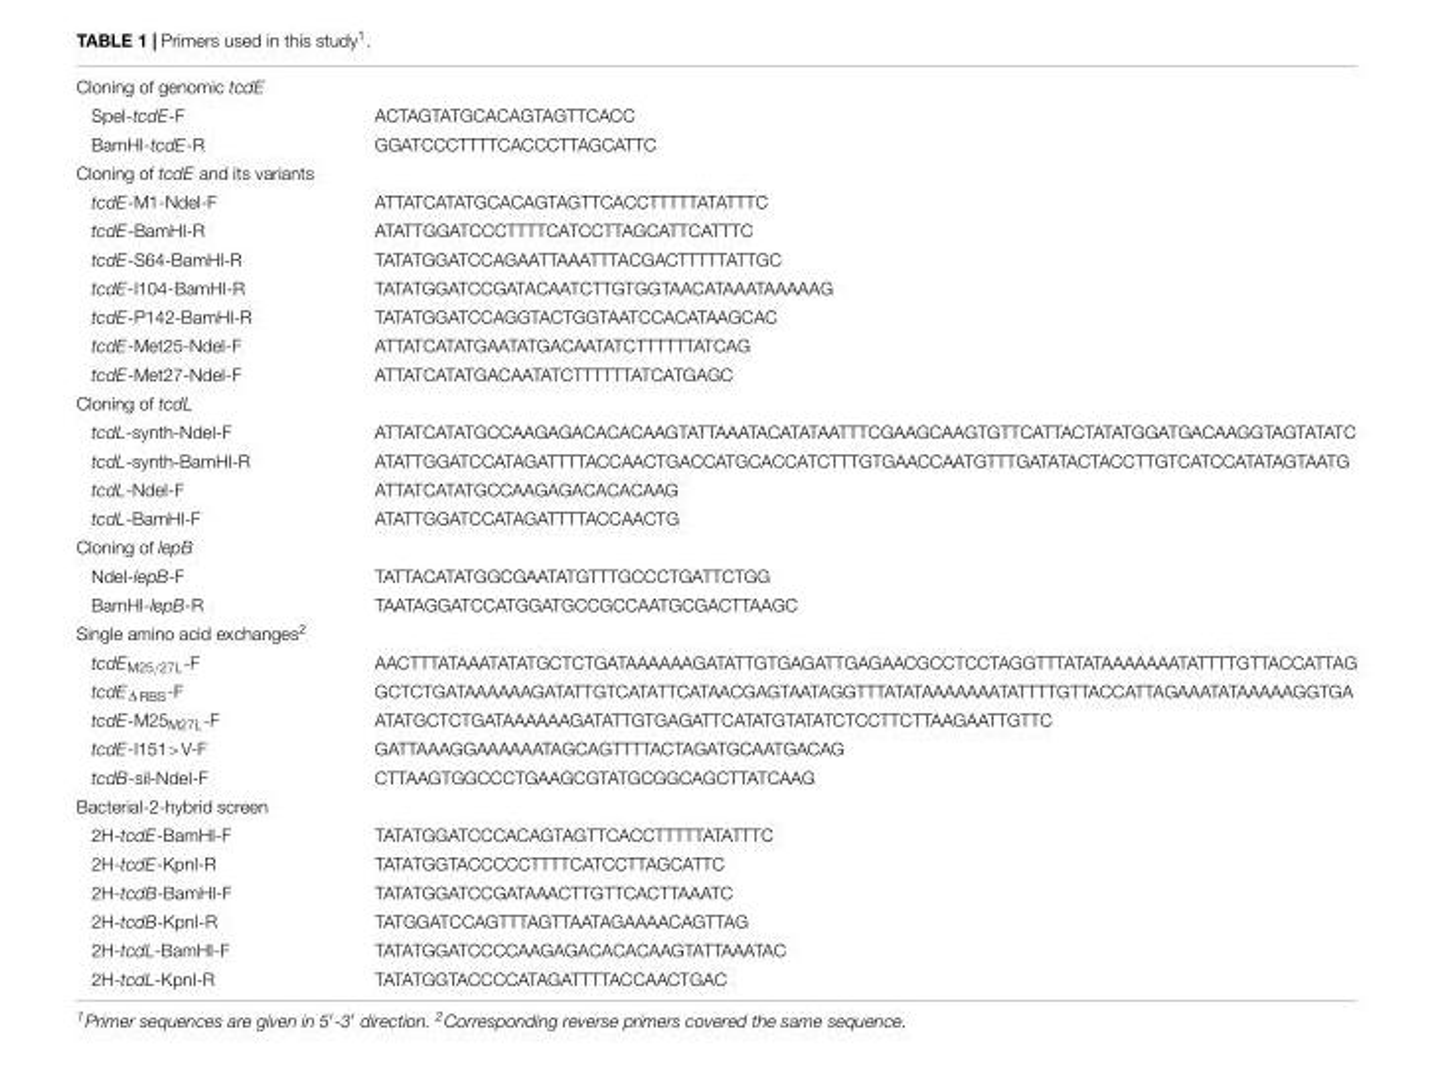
<table><tbody><tr><td colspan="2">Cloning of genomic tcdE</td></tr><tr><td>SpeI-tcdE-F</td><td>ACTAGTATGCACAGTAGTTCACC</td></tr><tr><td>BamHI-tcdE-R</td><td>GGATCCCTTTTCACCCTTAGCATTC</td></tr><tr><td colspan="2">Cloning of tcdE and its variants</td></tr><tr><td>tcdE-M1-NdeI-F</td><td>ATTATCATATGCACAGTAGTTCACCTTTTTATATTTC</td></tr><tr><td>tcdE-BamHI-R</td><td>ATATTGGATCCCTTTTCATCCTTAGCATTCATTTC</td></tr><tr><td>tcdE-S64-BamHI-R</td><td>TATATGGATCCAGAATTAAATTTACGACTTTTTATTGC</td></tr><tr><td>tcdE-I104-BamHI-R</td><td>TATATGGATCCGATACAATCTTGTGGTAACATAAATAAAAAG</td></tr><tr><td>tcdE-P142-BamHI-R</td><td>TATATGGATCCAGGTACTGGTAATCCACATAAGCAC</td></tr><tr><td>tcdE-Met25-NdeI-F</td><td>ATTATCATATGAATATGACAATATCTTTTTTATCAG</td></tr><tr><td>tcdE-Met27-NdeI-F</td><td>ATTATCATATGACAATATCTTTTTTATCATGAGC</td></tr><tr><td colspan="2">Cloning of tcdL</td></tr><tr><td>tcdL-synth-NdeI-F</td><td>ATTATCATATGCCAAGAGACACACAAGTATTAAATACATATAATTTCGAAGCAAGTGTTCATTACTATATGGATGACAAGGTAGTATATC</td></tr><tr><td>tcdL-synth-BamHI-R</td><td>ATATTGGATCCATAGATTTTACCAACTGACCATGCACCATCTTTGTGAACCAATGTTTGATATACTACCTTGTCATCCATATAGTAATG</td></tr><tr><td>tcdL-NdeI-F</td><td>ATTATCATATGCCAAGAGACACACAAG</td></tr><tr><td>tcdL-BamHI-F</td><td>ATATTGGATCCATAGATTTTACCAACTG</td></tr><tr><td colspan="2">Cloning of lepB</td></tr><tr><td>NdeI-lepB-F</td><td>TATTACATATGGCGAATATGTTTGCCCTGATTCTGG</td></tr><tr><td>BamHI-lepB-R</td><td>TAATAGGATCCATGGATGCCGCCAATGCGACTTAAGC</td></tr><tr><td colspan="2">Single amino acid exchanges<sup>2</sup></td></tr><tr><td>tcdE<sub>M25/27L</sub>-F</td><td>AACTTTATAAATATATGCTCTGATAAAAAAGATATTGTGAGATTGAGAACGCCTCCTAGGTTTATATAAAAAAATATTTTGTTACCATTAG</td></tr><tr><td>tcdE<sub>ΔRBS</sub>-F</td><td>GCTCTGATAAAAAAGATATTGTCATATTCATAACGAGTAATAGGTTTATATAAAAAAATATTTTGTTACCATTAGAAATATAAAAAGGTGA</td></tr><tr><td>tcdE-M25<sub>M27L</sub>-F</td><td>ATATGCTCTGATAAAAAAGATATTGTGAGATTCATATGTATATCTCCTTCTTAAGAATTGTTC</td></tr><tr><td>tcdE-I151&gt;V-F</td><td>GATTAAAGGAAAAAATAGCAGTTTTACTAGATGCAATGACAG</td></tr><tr><td>tcdB-sil-NdeI-F</td><td>CTTAAGTGGCCCTGAAGCGTATGCGGCAGCTTATCAAG</td></tr><tr><td colspan="2">Bacterial-2-hybrid screen</td></tr><tr><td>2H-tcdE-BamHI-F</td><td>TATATGGATCCCACAGTAGTTCACCTTTTTATATTTC</td></tr><tr><td>2H-tcdE-KpnI-R</td><td>TATATGGTACCCCCTTTTCATCCTTAGCATTC</td></tr><tr><td>2H-tcdB-BamHI-F</td><td>TATATGGATCCGATAAACTTGTTCACTTAAATC</td></tr><tr><td>2H-tcdB-KpnI-R</td><td>TATGGATCCAGTTTAGTTAATAGAAAACAGTTAG</td></tr><tr><td>2H-tcdL-BamHI-F</td><td>TATATGGATCCCCAAGAGACACACAAGTATTAAATAC</td></tr><tr><td>2H-tcdL-KpnI-R</td><td>TATATGGTACCCCATAGATTTTACCAACTGAC</td></tr></tbody></table>